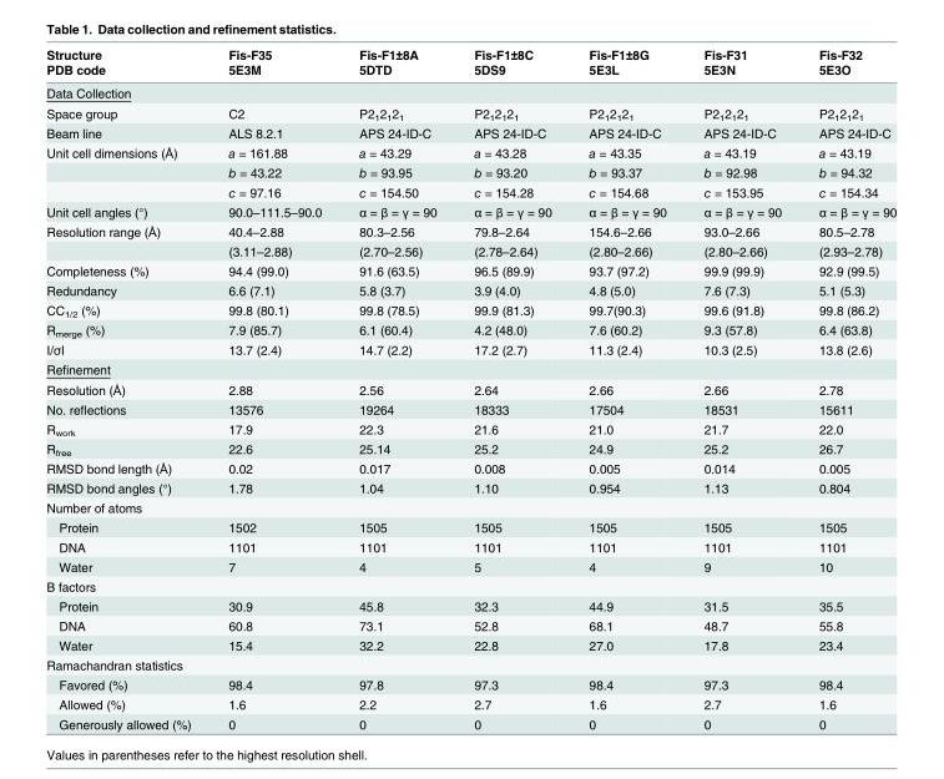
<table><thead><tr><td rowspan="2">Structure PDB code</td><td rowspan="2">Fis-F35 5E3M</td><td rowspan="2">Fis-F1±8A 5DTD</td><td rowspan="2">Fis-F1±8C 5DS9</td><td rowspan="2">Fis-F1±8G 5E3L</td><td rowspan="2">Fis-F31 5E3N</td><td rowspan="2">Fis-F32 5E3O</td></tr><tr></tr></thead><tbody><tr><td colspan="7">Data Collection</td></tr><tr><td>Space group</td><td>C2</td><td>P2<sub>1</sub>2<sub>1</sub>2<sub>1</sub></td><td>P2<sub>1</sub>2<sub>1</sub>2<sub>1</sub></td><td>P2<sub>1</sub>2<sub>1</sub>2<sub>1</sub></td><td>P2<sub>1</sub>2<sub>1</sub>2<sub>1</sub></td><td>P2<sub>1</sub>2<sub>1</sub>2<sub>1</sub></td></tr><tr><td>Beam line</td><td>ALS 8.2.1</td><td>APS 24-ID-C</td><td>APS 24-ID-C</td><td>APS 24-ID-C</td><td>APS 24-ID-C</td><td>APS 24-ID-C</td></tr><tr><td rowspan="3">Unit cell dimensions (Å)</td><td>a = 161.88</td><td>a = 43.29</td><td>a = 43.28</td><td>a = 43.35</td><td>a = 43.19</td><td>a = 43.19</td></tr><tr><td>b = 43.22</td><td>b = 93.95</td><td>b = 93.20</td><td>b = 93.37</td><td>b = 92.98</td><td>b = 94.32</td></tr><tr><td>c = 97.16</td><td>c = 154.50</td><td>c = 154.28</td><td>c = 154.68</td><td>c = 153.95</td><td>c = 154.34</td></tr><tr><td>Unit cell angles (°)</td><td>90.0–111.5–90.0</td><td>α = β = γ = 90</td><td>α = β = γ = 90</td><td>α = β = γ = 90</td><td>α = β = γ = 90</td><td>α = β = γ = 90</td></tr><tr><td rowspan="2">Resolution range (Å)</td><td>40.4–2.88</td><td>80.3–2.56</td><td>79.8–2.64</td><td>154.6–2.66</td><td>93.0–2.66</td><td>80.5–2.78</td></tr><tr><td>(3.11–2.88)</td><td>(2.70–2.56)</td><td>(2.78–2.64)</td><td>(2.80–2.66)</td><td>(2.80–2.66)</td><td>(2.93–2.78)</td></tr><tr><td>Completeness (%)</td><td>94.4 (99.0)</td><td>91.6 (63.5)</td><td>96.5 (89.9)</td><td>93.7 (97.2)</td><td>99.9 (99.9)</td><td>92.9 (99.5)</td></tr><tr><td>Redundancy</td><td>6.6 (7.1)</td><td>5.8 (3.7)</td><td>3.9 (4.0)</td><td>4.8 (5.0)</td><td>7.6 (7.3)</td><td>5.1 (5.3)</td></tr><tr><td>CC<sub>1/2</sub> (%)</td><td>99.8 (80.1)</td><td>99.8 (78.5)</td><td>99.9 (81.3)</td><td>99.7(90.3)</td><td>99.6 (91.8)</td><td>99.8 (86.2)</td></tr><tr><td>R<sub>merge</sub> (%)</td><td>7.9 (85.7)</td><td>6.1 (60.4)</td><td>4.2 (48.0)</td><td>7.6 (60.2)</td><td>9.3 (57.8)</td><td>6.4 (63.8)</td></tr><tr><td>I/σI</td><td>13.7 (2.4)</td><td>14.7 (2.2)</td><td>17.2 (2.7)</td><td>11.3 (2.4)</td><td>10.3 (2.5)</td><td>13.8 (2.6)</td></tr><tr><td colspan="7">Refinement</td></tr><tr><td>Resolution (Å)</td><td>2.88</td><td>2.56</td><td>2.64</td><td>2.66</td><td>2.66</td><td>2.78</td></tr><tr><td>No. reflections</td><td>13576</td><td>19264</td><td>18333</td><td>17504</td><td>18531</td><td>15611</td></tr><tr><td>R<sub>work</sub></td><td>17.9</td><td>22.3</td><td>21.6</td><td>21.0</td><td>21.7</td><td>22.0</td></tr><tr><td>R<sub>free</sub></td><td>22.6</td><td>25.14</td><td>25.2</td><td>24.9</td><td>25.2</td><td>26.7</td></tr><tr><td>RMSD bond length (Å)</td><td>0.02</td><td>0.017</td><td>0.008</td><td>0.005</td><td>0.014</td><td>0.005</td></tr><tr><td>RMSD bond angles (°)</td><td>1.78</td><td>1.04</td><td>1.10</td><td>0.954</td><td>1.13</td><td>0.804</td></tr><tr><td colspan="7">Number of atoms</td></tr><tr><td>Protein</td><td>1502</td><td>1505</td><td>1505</td><td>1505</td><td>1505</td><td>1505</td></tr><tr><td>DNA</td><td>1101</td><td>1101</td><td>1101</td><td>1101</td><td>1101</td><td>1101</td></tr><tr><td>Water</td><td>7</td><td>4</td><td>5</td><td>4</td><td>9</td><td>10</td></tr><tr><td colspan="7">B factors</td></tr><tr><td>Protein</td><td>30.9</td><td>45.8</td><td>32.3</td><td>44.9</td><td>31.5</td><td>35.5</td></tr><tr><td>DNA</td><td>60.8</td><td>73.1</td><td>52.8</td><td>68.1</td><td>48.7</td><td>55.8</td></tr><tr><td>Water</td><td>15.4</td><td>32.2</td><td>22.8</td><td>27.0</td><td>17.8</td><td>23.4</td></tr><tr><td colspan="7">Ramachandran statistics</td></tr><tr><td>Favored (%)</td><td>98.4</td><td>97.8</td><td>97.3</td><td>98.4</td><td>97.3</td><td>98.4</td></tr><tr><td>Allowed (%)</td><td>1.6</td><td>2.2</td><td>2.7</td><td>1.6</td><td>2.7</td><td>1.6</td></tr><tr><td>Generously allowed (%)</td><td>0</td><td>0</td><td>0</td><td>0</td><td>0</td><td>0</td></tr></tbody></table>